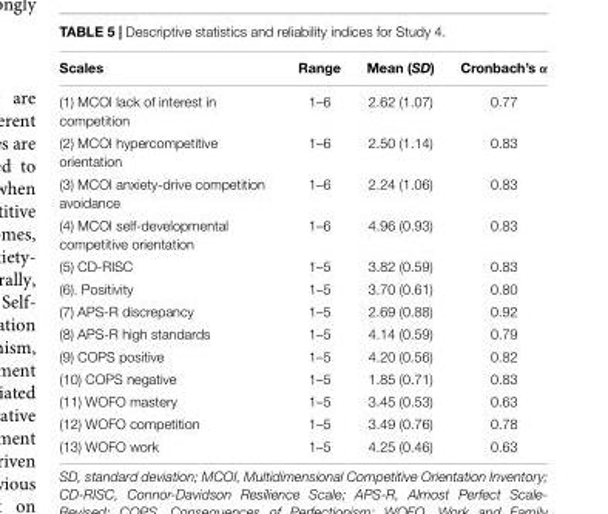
<table><thead><tr><td>Scales</td><td>Range</td><td>Mean (SD)</td><td>Cronbach’s α</td></tr></thead><tbody><tr><td>(1) MCOI lack of interest in competition</td><td>1–6</td><td>2.62 (1.07)</td><td>0.77</td></tr><tr><td>(2) MCOI hypercompetitive orientation</td><td>1–6</td><td>2.50 (1.14)</td><td>0.83</td></tr><tr><td>(3) MCOI anxiety-drive competition avoidance</td><td>1–6</td><td>2.24 (1.06)</td><td>0.83</td></tr><tr><td>(4) MCOI self-developmental competitive orientation</td><td>1–6</td><td>4.96 (0.93)</td><td>0.83</td></tr><tr><td>(5) CD-RISC</td><td>1–5</td><td>3.82 (0.59)</td><td>0.83</td></tr><tr><td>(6). Positivity</td><td>1–5</td><td>3.70 (0.61)</td><td>0.80</td></tr><tr><td>(7) APS-R discrepancy</td><td>1–5</td><td>2.69 (0.88)</td><td>0.92</td></tr><tr><td>(8) APS-R high standards</td><td>1–5</td><td>4.14 (0.59)</td><td>0.79</td></tr><tr><td>(9) COPS positive</td><td>1–5</td><td>4.20 (0.56)</td><td>0.82</td></tr><tr><td>(10) COPS negative</td><td>1–5</td><td>1.85 (0.71)</td><td>0.83</td></tr><tr><td>(11) WOFO mastery</td><td>1–5</td><td>3.45 (0.53)</td><td>0.63</td></tr><tr><td>(12) WOFO competition</td><td>1–5</td><td>3.49 (0.76)</td><td>0.78</td></tr><tr><td>(13) WOFO work</td><td>1–5</td><td>4.25 (0.46)</td><td>0.63</td></tr></tbody></table>